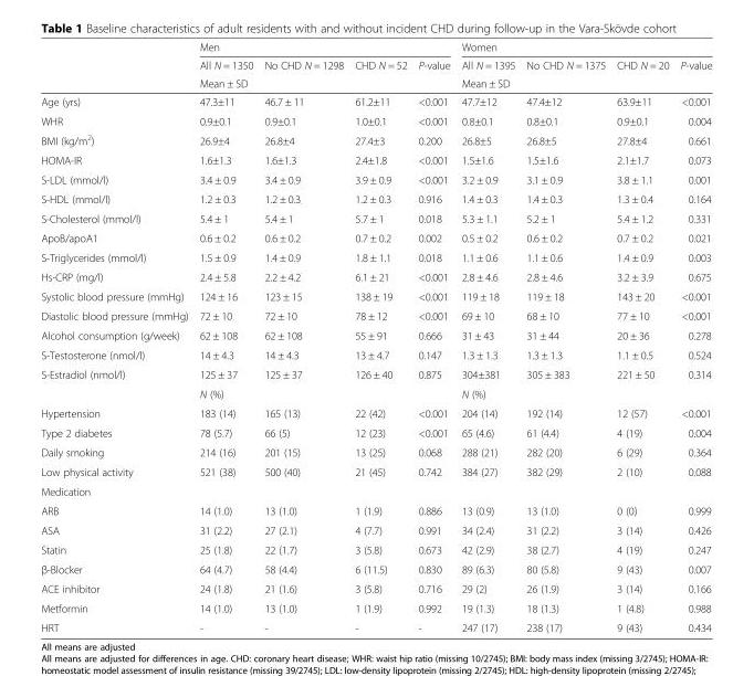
<table><thead><tr><td rowspan="3"></td><td colspan="4">Men</td><td colspan="4">Women</td></tr><tr><td>All N = 1350</td><td>No CHD N = 1298</td><td>CHD N = 52</td><td rowspan="2">P-value</td><td>All N = 1395</td><td>No CHD N = 1375</td><td>CHD N = 20</td><td rowspan="2">P-value</td></tr><tr><td colspan="3">Mean ± SD</td><td colspan="3">Mean ± SD</td></tr></thead><tbody><tr><td>Age (yrs)</td><td>47.3±11</td><td>46.7 ± 11</td><td>61.2±11</td><td>&lt;0.001</td><td>47.7±12</td><td>47.4±12</td><td>63.9±11</td><td>&lt;0.001</td></tr><tr><td>WHR</td><td>0.9±0.1</td><td>0.9±0.1</td><td>1.0±0.1</td><td>&lt;0.001</td><td>0.8±0.1</td><td>0.8±0.1</td><td>0.9±0.1</td><td>0.004</td></tr><tr><td>BMI (kg/m<sup>2</sup>)</td><td>26.9±4</td><td>26.8±4</td><td>27.4±3</td><td>0.200</td><td>26.8±5</td><td>26.8±5</td><td>27.8±4</td><td>0.661</td></tr><tr><td>HOMA-IR</td><td>1.6±1.3</td><td>1.6±1.3</td><td>2.4±1.8</td><td>&lt;0.001</td><td>1.5±1.6</td><td>1.5±1.6</td><td>2.1±1.7</td><td>0.073</td></tr><tr><td>S-LDL (mmol/l)</td><td>3.4 ± 0.9</td><td>3.4 ± 0.9</td><td>3.9 ± 0.9</td><td>&lt;0.001</td><td>3.2 ± 0.9</td><td>3.1 ± 0.9</td><td>3.8 ± 1.1</td><td>0.001</td></tr><tr><td>S-HDL (mmol/l)</td><td>1.2 ± 0.3</td><td>1.2 ± 0.3</td><td>1.2 ± 0.3</td><td>0.916</td><td>1.4 ± 0.3</td><td>1.4 ± 0.3</td><td>1.3 ± 0.4</td><td>0.164</td></tr><tr><td>S-Cholesterol (mmol/l)</td><td>5.4 ± 1</td><td>5.4 ± 1</td><td>5.7 ± 1</td><td>0.018</td><td>5.3 ± 1.1</td><td>5.2 ± 1</td><td>5.4 ± 1.2</td><td>0.331</td></tr><tr><td>ApoB/apoA1</td><td>0.6 ± 0.2</td><td>0.6 ± 0.2</td><td>0.7 ± 0.2</td><td>0.002</td><td>0.5 ± 0.2</td><td>0.6 ± 0.2</td><td>0.7 ± 0.2</td><td>0.021</td></tr><tr><td>S-Triglycerides (mmol/l)</td><td>1.5 ± 0.9</td><td>1.4 ± 0.9</td><td>1.8 ± 1.1</td><td>0.018</td><td>1.1 ± 0.6</td><td>1.1 ± 0.6</td><td>1.4 ± 0.9</td><td>0.003</td></tr><tr><td>Hs-CRP (mg/l)</td><td>2.4 ± 5.8</td><td>2.2 ± 4.2</td><td>6.1 ± 21</td><td>&lt;0.001</td><td>2.8 ± 4.6</td><td>2.8 ± 4.6</td><td>3.2 ± 3.9</td><td>0.675</td></tr><tr><td>Systolic blood pressure (mmHg)</td><td>124 ± 16</td><td>123 ± 15</td><td>138 ± 19</td><td>&lt;0.001</td><td>119 ± 18</td><td>119 ± 18</td><td>143 ± 20</td><td>&lt;0.001</td></tr><tr><td>Diastolic blood pressure (mmHg)</td><td>72 ± 10</td><td>72 ± 10</td><td>78 ± 12</td><td>&lt;0.001</td><td>69 ± 10</td><td>68 ± 10</td><td>77 ± 10</td><td>&lt;0.001</td></tr><tr><td>Alcohol consumption (g/week)</td><td>62 ± 108</td><td>62 ± 108</td><td>55 ± 91</td><td>0.666</td><td>31 ± 43</td><td>31 ± 44</td><td>20 ± 36</td><td>0.278</td></tr><tr><td>S-Testosterone (nmol/l)</td><td>14 ± 4.3</td><td>14 ± 4.3</td><td>13 ± 4.7</td><td>0.147</td><td>1.3 ± 1.3</td><td>1.3 ± 1.3</td><td>1.1 ± 0.5</td><td>0.524</td></tr><tr><td rowspan="2">S-Estradiol (nmol/l)</td><td>125 ± 37</td><td>125 ± 37</td><td>126 ± 40</td><td>0.875</td><td>304±381</td><td>305 ± 383</td><td>221 ± 50</td><td>0.314</td></tr><tr><td colspan="3">N (%)</td><td></td><td colspan="3">N (%)</td><td></td></tr><tr><td>Hypertension</td><td>183 (14)</td><td>165 (13)</td><td>22 (42)</td><td>&lt;0.001</td><td>204 (14)</td><td>192 (14)</td><td>12 (57)</td><td>&lt;0.001</td></tr><tr><td>Type 2 diabetes</td><td>78 (5.7)</td><td>66 (5)</td><td>12 (23)</td><td>&lt;0.001</td><td>65 (4.6)</td><td>61 (4.4)</td><td>4 (19)</td><td>0.004</td></tr><tr><td>Daily smoking</td><td>214 (16)</td><td>201 (15)</td><td>13 (25)</td><td>0.068</td><td>288 (21)</td><td>282 (20)</td><td>6 (29)</td><td>0.364</td></tr><tr><td>Low physical activity</td><td>521 (38)</td><td>500 (40)</td><td>21 (45)</td><td>0.742</td><td>384 (27)</td><td>382 (29)</td><td>2 (10)</td><td>0.088</td></tr><tr><td colspan="9">Medication</td></tr><tr><td>ARB</td><td>14 (1.0)</td><td>13 (1.0)</td><td>1 (1.9)</td><td>0.886</td><td>13 (0.9)</td><td>13 (1.0)</td><td>0 (0)</td><td>0.999</td></tr><tr><td>ASA</td><td>31 (2.2)</td><td>27 (2.1)</td><td>4 (7.7)</td><td>0.991</td><td>34 (2.4)</td><td>31 (2.2)</td><td>3 (14)</td><td>0.426</td></tr><tr><td>Statin</td><td>25 (1.8)</td><td>22 (1.7)</td><td>3 (5.8)</td><td>0.673</td><td>42 (2.9)</td><td>38 (2.7)</td><td>4 (19)</td><td>0.247</td></tr><tr><td>β-Blocker</td><td>64 (4.7)</td><td>58 (4.4)</td><td>6 (11.5)</td><td>0.830</td><td>89 (6.3)</td><td>80 (5.8)</td><td>9 (43)</td><td>0.007</td></tr><tr><td>ACE inhibitor</td><td>24 (1.8)</td><td>21 (1.6)</td><td>3 (5.8)</td><td>0.716</td><td>29 (2)</td><td>26 (1.9)</td><td>3 (14)</td><td>0.166</td></tr><tr><td>Metformin</td><td>14 (1.0)</td><td>13 (1.0)</td><td>1 (1.9)</td><td>0.992</td><td>19 (1.3)</td><td>18 (1.3)</td><td>1 (4.8)</td><td>0.988</td></tr><tr><td>HRT</td><td>-</td><td>-</td><td>-</td><td>-</td><td>247 (17)</td><td>238 (17)</td><td>9 (43)</td><td>0.434</td></tr></tbody></table>